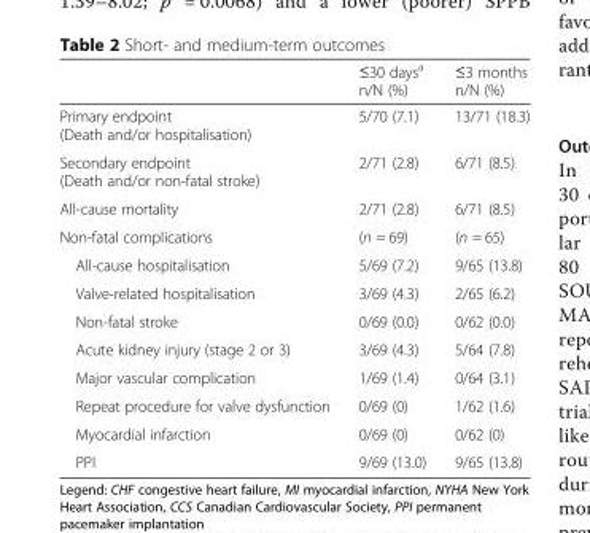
<table><thead><tr><td></td><td>≤30 days<sup>a</sup> n/N (%)</td><td>≤3 months n/N (%)</td></tr></thead><tbody><tr><td>Primary endpoint (Death and/or hospitalisation)</td><td>5/70 (7.1)</td><td>13/71 (18.3)</td></tr><tr><td>Secondary endpoint (Death and/or non-fatal stroke)</td><td>2/71 (2.8)</td><td>6/71 (8.5)</td></tr><tr><td>All-cause mortality</td><td>2/71 (2.8)</td><td>6/71 (8.5)</td></tr><tr><td>Non-fatal complications</td><td>(n = 69)</td><td>(n = 65)</td></tr><tr><td>All-cause hospitalisation</td><td>5/69 (7.2)</td><td>9/65 (13.8)</td></tr><tr><td>Valve-related hospitalisation</td><td>3/69 (4.3)</td><td>2/65 (6.2)</td></tr><tr><td>Non-fatal stroke</td><td>0/69 (0.0)</td><td>0/62 (0.0)</td></tr><tr><td>Acute kidney injury (stage 2 or 3)</td><td>3/69 (4.3)</td><td>5/64 (7.8)</td></tr><tr><td>Major vascular complication</td><td>1/69 (1.4)</td><td>0/64 (3.1)</td></tr><tr><td>Repeat procedure for valve dysfunction</td><td>0/69 (0)</td><td>1/62 (1.6)</td></tr><tr><td>Myocardial infarction</td><td>0/69 (0)</td><td>0/62 (0)</td></tr><tr><td>PPI</td><td>9/69 (13.0)</td><td>9/65 (13.8)</td></tr></tbody></table>